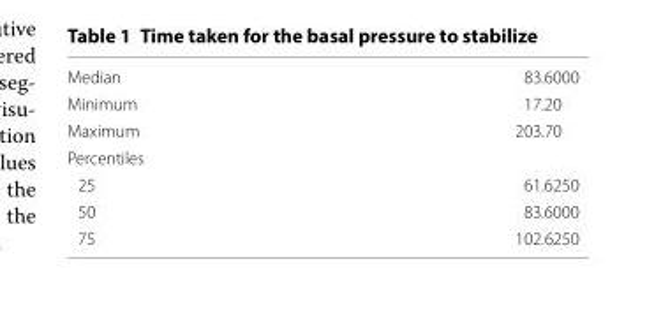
<table><tbody><tr><td>Median</td><td>83.6000</td></tr><tr><td>Minimum</td><td>17.20</td></tr><tr><td>Maximum</td><td>203.70</td></tr><tr><td colspan="2">Percentiles</td></tr><tr><td>25</td><td>61.6250</td></tr><tr><td>50</td><td>83.6000</td></tr><tr><td>75</td><td>102.6250</td></tr></tbody></table>